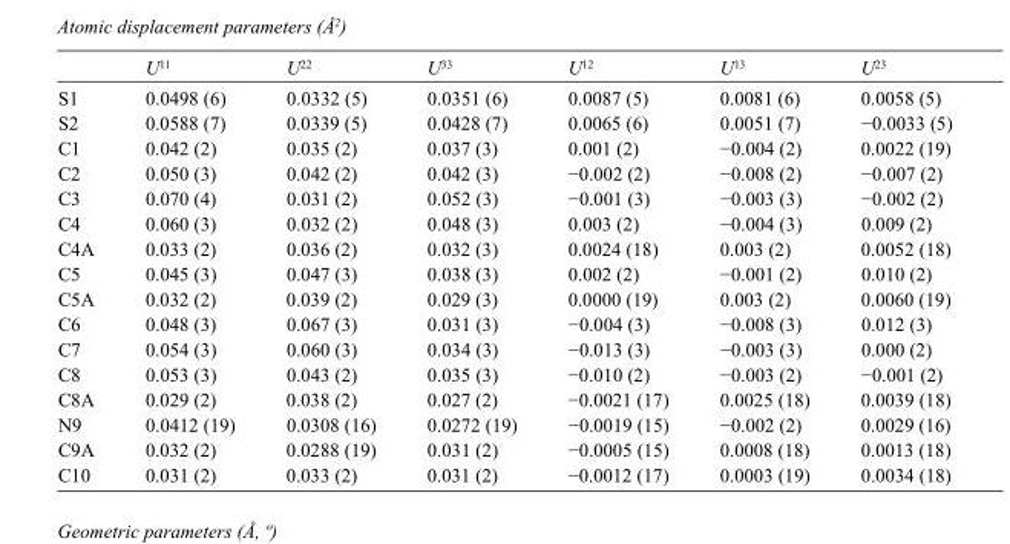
<table><thead><tr><td></td><td>U<sup>11</sup></td><td>U<sup>22</sup></td><td>U<sup>33</sup></td><td>U<sup>12</sup></td><td>U<sup>13</sup></td><td>U<sup>23</sup></td></tr></thead><tbody><tr><td>S1</td><td>0.0498 (6)</td><td>0.0332 (5)</td><td>0.0351 (6)</td><td>0.0087 (5)</td><td>0.0081 (6)</td><td>0.0058 (5)</td></tr><tr><td>S2</td><td>0.0588 (7)</td><td>0.0339 (5)</td><td>0.0428 (7)</td><td>0.0065 (6)</td><td>0.0051 (7)</td><td>−0.0033 (5)</td></tr><tr><td>C1</td><td>0.042 (2)</td><td>0.035 (2)</td><td>0.037 (3)</td><td>0.001 (2)</td><td>−0.004 (2)</td><td>0.0022 (19)</td></tr><tr><td>C2</td><td>0.050 (3)</td><td>0.042 (2)</td><td>0.042 (3)</td><td>−0.002 (2)</td><td>−0.008 (2)</td><td>−0.007 (2)</td></tr><tr><td>C3</td><td>0.070 (4)</td><td>0.031 (2)</td><td>0.052 (3)</td><td>−0.001 (3)</td><td>−0.003 (3)</td><td>−0.002 (2)</td></tr><tr><td>C4</td><td>0.060 (3)</td><td>0.032 (2)</td><td>0.048 (3)</td><td>0.003 (2)</td><td>−0.004 (3)</td><td>0.009 (2)</td></tr><tr><td>C4A</td><td>0.033 (2)</td><td>0.036 (2)</td><td>0.032 (3)</td><td>0.0024 (18)</td><td>0.003 (2)</td><td>0.0052 (18)</td></tr><tr><td>C5</td><td>0.045 (3)</td><td>0.047 (3)</td><td>0.038 (3)</td><td>0.002 (2)</td><td>−0.001 (2)</td><td>0.010 (2)</td></tr><tr><td>C5A</td><td>0.032 (2)</td><td>0.039 (2)</td><td>0.029 (3)</td><td>0.0000 (19)</td><td>0.003 (2)</td><td>0.0060 (19)</td></tr><tr><td>C6</td><td>0.048 (3)</td><td>0.067 (3)</td><td>0.031 (3)</td><td>−0.004 (3)</td><td>−0.008 (3)</td><td>0.012 (3)</td></tr><tr><td>C7</td><td>0.054 (3)</td><td>0.060 (3)</td><td>0.034 (3)</td><td>−0.013 (3)</td><td>−0.003 (3)</td><td>0.000 (2)</td></tr><tr><td>C8</td><td>0.053 (3)</td><td>0.043 (2)</td><td>0.035 (3)</td><td>−0.010 (2)</td><td>−0.003 (2)</td><td>−0.001 (2)</td></tr><tr><td>C8A</td><td>0.029 (2)</td><td>0.038 (2)</td><td>0.027 (2)</td><td>−0.0021 (17)</td><td>0.0025 (18)</td><td>0.0039 (18)</td></tr><tr><td>N9</td><td>0.0412 (19)</td><td>0.0308 (16)</td><td>0.0272 (19)</td><td>−0.0019 (15)</td><td>−0.002 (2)</td><td>0.0029 (16)</td></tr><tr><td>C9A</td><td>0.032 (2)</td><td>0.0288 (19)</td><td>0.031 (2)</td><td>−0.0005 (15)</td><td>0.0008 (18)</td><td>0.0013 (18)</td></tr><tr><td>C10</td><td>0.031 (2)</td><td>0.033 (2)</td><td>0.031 (2)</td><td>−0.0012 (17)</td><td>0.0003 (19)</td><td>0.0034 (18)</td></tr></tbody></table>